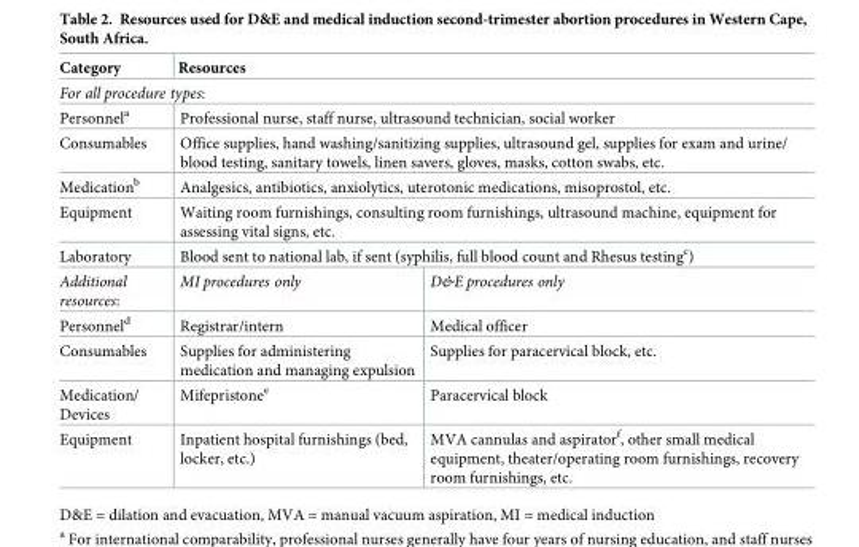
<table><thead><tr><td>Category</td><td colspan="2">Resources</td></tr></thead><tbody><tr><td colspan="3">For all procedure types:</td></tr><tr><td>Personnel<sup>a</sup></td><td colspan="2">Professional nurse, staff nurse, ultrasound technician, social worker</td></tr><tr><td>Consumables</td><td colspan="2">Office supplies, hand washing/sanitizing supplies, ultrasound gel, supplies for exam and urine/ blood testing, sanitary towels, linen savers, gloves, masks, cotton swabs, etc.</td></tr><tr><td>Medication<sup>b</sup></td><td colspan="2">Analgesics, antibiotics, anxiolytics, uterotonic medications, misoprostol, etc.</td></tr><tr><td>Equipment</td><td colspan="2">Waiting room furnishings, consulting room furnishings, ultrasound machine, equipment for assessing vital signs, etc.</td></tr><tr><td>Laboratory</td><td colspan="2">Blood sent to national lab, if sent (syphilis, full blood count and Rhesus testing<sup>c</sup>)</td></tr><tr><td>Additional resources:</td><td>MI procedures only</td><td>D&amp;E procedures only</td></tr><tr><td>Personnel<sup>d</sup></td><td>Registrar/intern</td><td>Medical officer</td></tr><tr><td>Consumables</td><td>Supplies for administering medication and managing expulsion</td><td>Supplies for paracervical block, etc.</td></tr><tr><td>Medication/ Devices</td><td>Mifepristone<sup>e</sup></td><td>Paracervical block</td></tr><tr><td>Equipment</td><td>Inpatient hospital furnishings (bed, locker, etc.)</td><td>MVA cannulas and aspirator<sup>f</sup>, other small medical equipment, theater/operating room furnishings, recovery room furnishings, etc.</td></tr></tbody></table>